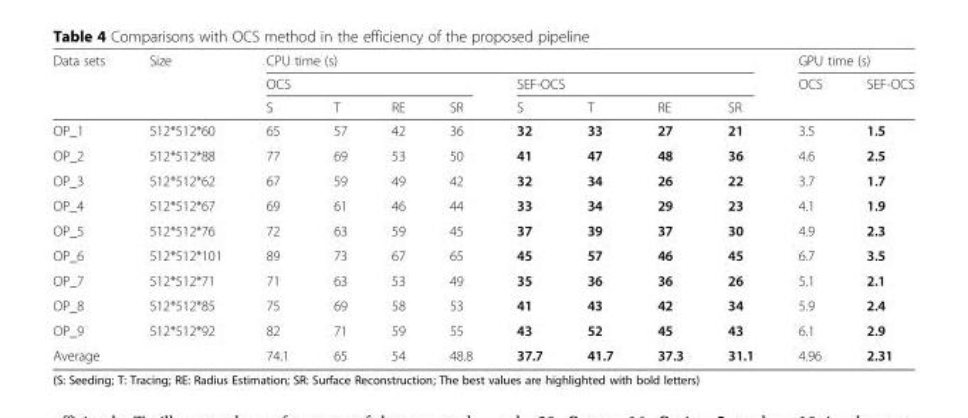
<table><thead><tr><td rowspan="3">Data sets</td><td rowspan="3">Size</td><td colspan="8">CPU time (s)</td><td colspan="2">GPU time (s)</td></tr><tr><td colspan="4">OCS</td><td colspan="4">SEF-OCS</td><td rowspan="2">OCS</td><td rowspan="2">SEF-OCS</td></tr><tr><td>S</td><td>T</td><td>RE</td><td>SR</td><td>S</td><td>T</td><td>RE</td><td>SR</td></tr></thead><tbody><tr><td>OP_1</td><td>512*512*60</td><td>65</td><td>57</td><td>42</td><td>36</td><td>32</td><td>33</td><td>27</td><td>21</td><td>3.5</td><td>1.5</td></tr><tr><td>OP_2</td><td>512*512*88</td><td>77</td><td>69</td><td>53</td><td>50</td><td>41</td><td>47</td><td>48</td><td>36</td><td>4.6</td><td>2.5</td></tr><tr><td>OP_3</td><td>512*512*62</td><td>67</td><td>59</td><td>49</td><td>42</td><td>32</td><td>34</td><td>26</td><td>22</td><td>3.7</td><td>1.7</td></tr><tr><td>OP_4</td><td>512*512*67</td><td>69</td><td>61</td><td>46</td><td>44</td><td>33</td><td>34</td><td>29</td><td>23</td><td>4.1</td><td>1.9</td></tr><tr><td>OP_5</td><td>512*512*76</td><td>72</td><td>63</td><td>59</td><td>45</td><td>37</td><td>39</td><td>37</td><td>30</td><td>4.9</td><td>2.3</td></tr><tr><td>OP_6</td><td>512*512*101</td><td>89</td><td>73</td><td>67</td><td>65</td><td>45</td><td>57</td><td>46</td><td>45</td><td>6.7</td><td>3.5</td></tr><tr><td>OP_7</td><td>512*512*71</td><td>71</td><td>63</td><td>53</td><td>49</td><td>35</td><td>36</td><td>36</td><td>26</td><td>5.1</td><td>2.1</td></tr><tr><td>OP_8</td><td>512*512*85</td><td>75</td><td>69</td><td>58</td><td>53</td><td>41</td><td>43</td><td>42</td><td>34</td><td>5.9</td><td>2.4</td></tr><tr><td>OP_9</td><td>512*512*92</td><td>82</td><td>71</td><td>59</td><td>55</td><td>43</td><td>52</td><td>45</td><td>43</td><td>6.1</td><td>2.9</td></tr><tr><td colspan="2">Average</td><td>74.1</td><td>65</td><td>54</td><td>48.8</td><td>37.7</td><td>41.7</td><td>37.3</td><td>31.1</td><td>4.96</td><td>2.31</td></tr></tbody></table>